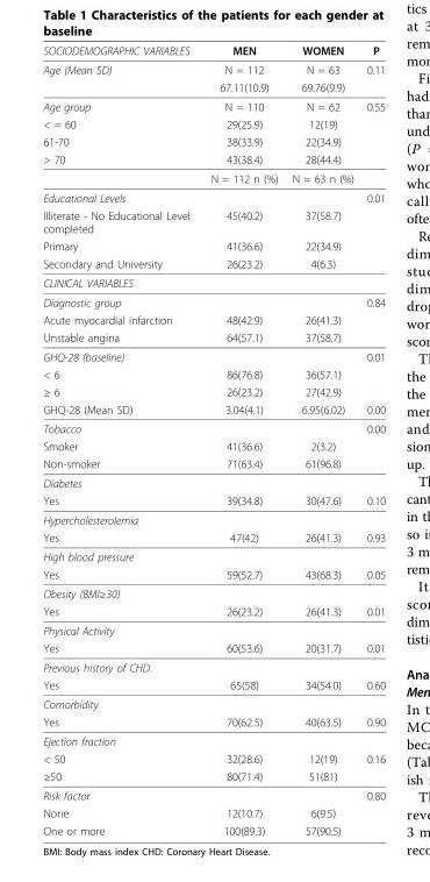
<table><thead><tr><td>SOCIODEMOGRAPHIC VARIABLES</td><td>MEN</td><td>WOMEN</td><td>P</td></tr></thead><tbody><tr><td rowspan="2">Age (Mean SD)</td><td>N = 112</td><td>N = 63</td><td>0.11</td></tr><tr><td>67.11(10.9)</td><td>69.76(9.9)</td><td></td></tr><tr><td>Age group</td><td>N = 110</td><td>N = 62</td><td>0.55</td></tr><tr><td>&lt; = 60</td><td>29(25.9)</td><td>12(19)</td><td></td></tr><tr><td>61-70</td><td>38(33.9)</td><td>22(34.9)</td><td></td></tr><tr><td rowspan="2">&gt; 70</td><td>43(38.4)</td><td>28(44.4)</td><td></td></tr><tr><td>N = 112 n (%)</td><td>N = 63 n (%)</td><td></td></tr><tr><td>Educational Levels</td><td></td><td></td><td>0.01</td></tr><tr><td>Illiterate - No Educational Level completed</td><td>45(40.2)</td><td>37(58.7)</td><td></td></tr><tr><td>Primary</td><td>41(36.6)</td><td>22(34.9)</td><td></td></tr><tr><td>Secondary and University</td><td>26(23.2)</td><td>4(6.3)</td><td></td></tr><tr><td colspan="4">CLINICAL VARIABLES</td></tr><tr><td>Diagnostic group</td><td></td><td></td><td>0.84</td></tr><tr><td>Acute myocardial infarction</td><td>48(42.9)</td><td>26(41.3)</td><td></td></tr><tr><td>Unstable angina</td><td>64(57.1)</td><td>37(58.7)</td><td></td></tr><tr><td>GHQ-28 (baseline)</td><td></td><td></td><td>0.01</td></tr><tr><td>&lt; 6</td><td>86(76.8)</td><td>36(57.1)</td><td></td></tr><tr><td>≥ 6</td><td>26(23.2)</td><td>27(42.9)</td><td></td></tr><tr><td>GHQ-28 (Mean SD)</td><td>3.04(4.1)</td><td>6.95(6.02)</td><td>0.00</td></tr><tr><td>Tobacco</td><td></td><td></td><td>0.00</td></tr><tr><td>Smoker</td><td>41(36.6)</td><td>2(3.2)</td><td></td></tr><tr><td>Non-smoker</td><td>71(63.4)</td><td>61(96.8)</td><td></td></tr><tr><td colspan="4">Diabetes</td></tr><tr><td>Yes</td><td>39(34.8)</td><td>30(47.6)</td><td>0.10</td></tr><tr><td colspan="4">Hypercholesterolemia</td></tr><tr><td>Yes</td><td>47(42)</td><td>26(41.3)</td><td>0.93</td></tr><tr><td colspan="4">High blood pressure</td></tr><tr><td>Yes</td><td>59(52.7)</td><td>43(68.3)</td><td>0.05</td></tr><tr><td colspan="4">Obesity (BMI≥30)</td></tr><tr><td>Yes</td><td>26(23.2)</td><td>26(41.3)</td><td>0.01</td></tr><tr><td colspan="4">Physical Activity</td></tr><tr><td>Yes</td><td>60(53.6)</td><td>20(31.7)</td><td>0.01</td></tr><tr><td colspan="4">Previous history of CHD.</td></tr><tr><td>Yes</td><td>65(58)</td><td>34(54.0)</td><td>0.60</td></tr><tr><td colspan="4">Comorbidity</td></tr><tr><td>Yes</td><td>70(62.5)</td><td>40(63.5)</td><td>0.90</td></tr><tr><td colspan="4">Ejection fraction</td></tr><tr><td>&lt; 50</td><td>32(28.6)</td><td>12(19)</td><td>0.16</td></tr><tr><td>≥50</td><td>80(71.4)</td><td>51(81)</td><td></td></tr><tr><td>Risk factor</td><td></td><td></td><td>0.80</td></tr><tr><td>None</td><td>12(10.7)</td><td>6(9.5)</td><td></td></tr><tr><td>One or more</td><td>100(89.3)</td><td>57(90.5)</td><td></td></tr></tbody></table>